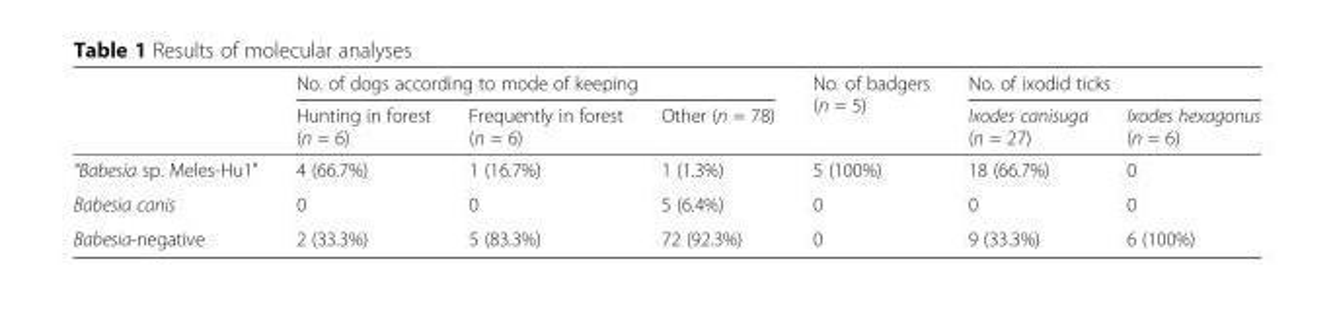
<table><thead><tr><td rowspan="2"></td><td colspan="3">No. of dogs according to mode of keeping</td><td rowspan="2">No. of badgers (n = 5)</td><td colspan="2">No. of ixodid ticks</td></tr><tr><td>Hunting in forest (n = 6)</td><td>Frequently in forest (n = 6)</td><td>Other (n = 78)</td><td>Ixodes canisuga (n = 27)</td><td>Ixodes hexagonus (n = 6)</td></tr></thead><tbody><tr><td>“Babesia sp. Meles-Hu1”</td><td>4 (66.7%)</td><td>1 (16.7%)</td><td>1 (1.3%)</td><td>5 (100%)</td><td>18 (66.7%)</td><td>0</td></tr><tr><td>Babesia canis</td><td>0</td><td>0</td><td>5 (6.4%)</td><td>0</td><td>0</td><td>0</td></tr><tr><td>Babesia-negative</td><td>2 (33.3%)</td><td>5 (83.3%)</td><td>72 (92.3%)</td><td>0</td><td>9 (33.3%)</td><td>6 (100%)</td></tr></tbody></table>